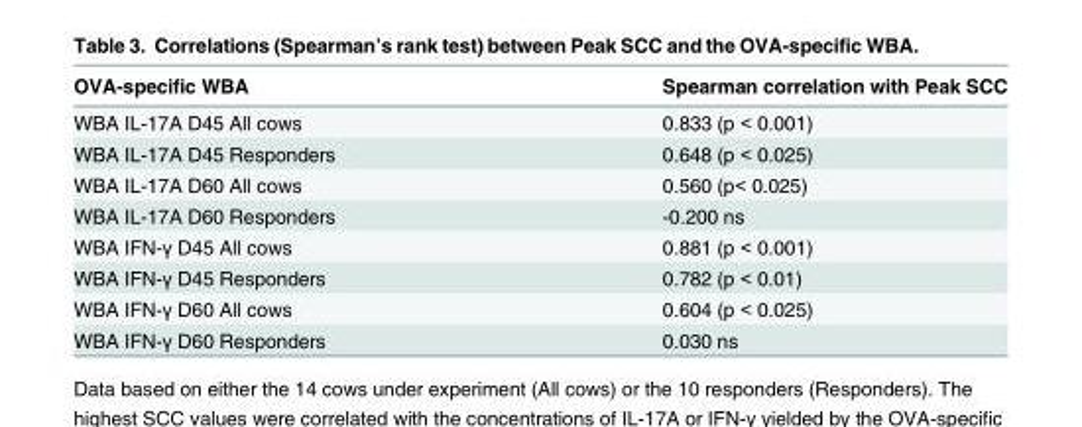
<table><thead><tr><td>OVA-specific WBA</td><td>Spearman correlation with Peak SCC</td></tr></thead><tbody><tr><td>WBA IL-17A D45 All cows</td><td>0.833 (p &lt; 0.001)</td></tr><tr><td>WBA IL-17A D45 Responders</td><td>0.648 (p &lt; 0.025)</td></tr><tr><td>WBA IL-17A D60 All cows</td><td>0.560 (p&lt; 0.025)</td></tr><tr><td>WBA IL-17A D60 Responders</td><td>-0.200 ns</td></tr><tr><td>WBA IFN-γ D45 All cows</td><td>0.881 (p &lt; 0.001)</td></tr><tr><td>WBA IFN-γ D45 Responders</td><td>0.782 (p &lt; 0.01)</td></tr><tr><td>WBA IFN-γ D60 All cows</td><td>0.604 (p &lt; 0.025)</td></tr><tr><td>WBA IFN-γ D60 Responders</td><td>0.030 ns</td></tr></tbody></table>